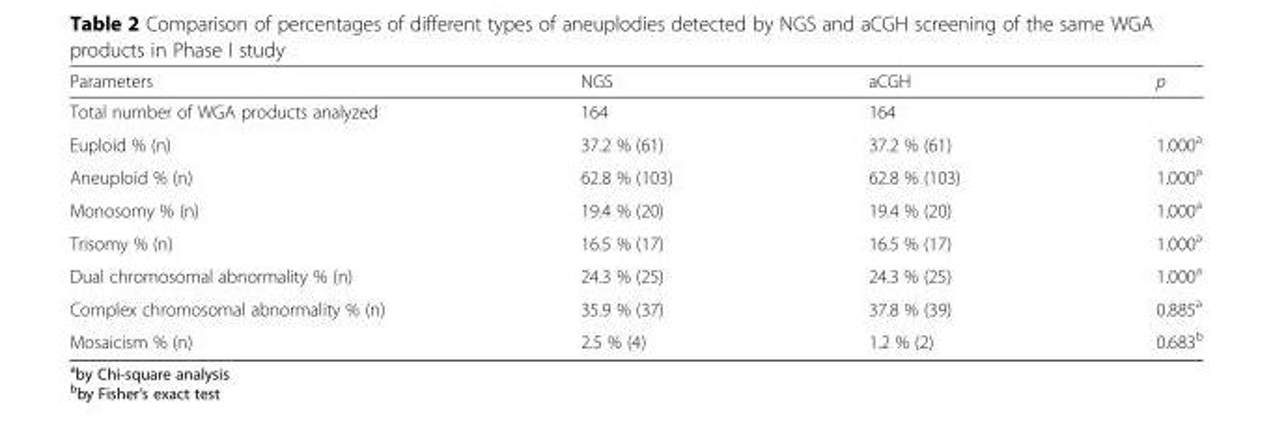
<table><thead><tr><td>Parameters</td><td>NGS</td><td>aCGH</td><td>p</td></tr></thead><tbody><tr><td>Total number of WGA products analyzed</td><td>164</td><td>164</td><td></td></tr><tr><td>Euploid % (n)</td><td>37.2 % (61)</td><td>37.2 % (61)</td><td>1.000<sup>a</sup></td></tr><tr><td>Aneuploid % (n)</td><td>62.8 % (103)</td><td>62.8 % (103)</td><td>1.000<sup>a</sup></td></tr><tr><td>Monosomy % (n)</td><td>19.4 % (20)</td><td>19.4 % (20)</td><td>1.000<sup>a</sup></td></tr><tr><td>Trisomy % (n)</td><td>16.5 % (17)</td><td>16.5 % (17)</td><td>1.000<sup>a</sup></td></tr><tr><td>Dual chromosomal abnormality % (n)</td><td>24.3 % (25)</td><td>24.3 % (25)</td><td>1.000<sup>a</sup></td></tr><tr><td>Complex chromosomal abnormality % (n)</td><td>35.9 % (37)</td><td>37.8 % (39)</td><td>0.885<sup>a</sup></td></tr><tr><td>Mosaicism % (n)</td><td>2.5 % (4)</td><td>1.2 % (2)</td><td>0.683<sup>b</sup></td></tr></tbody></table>